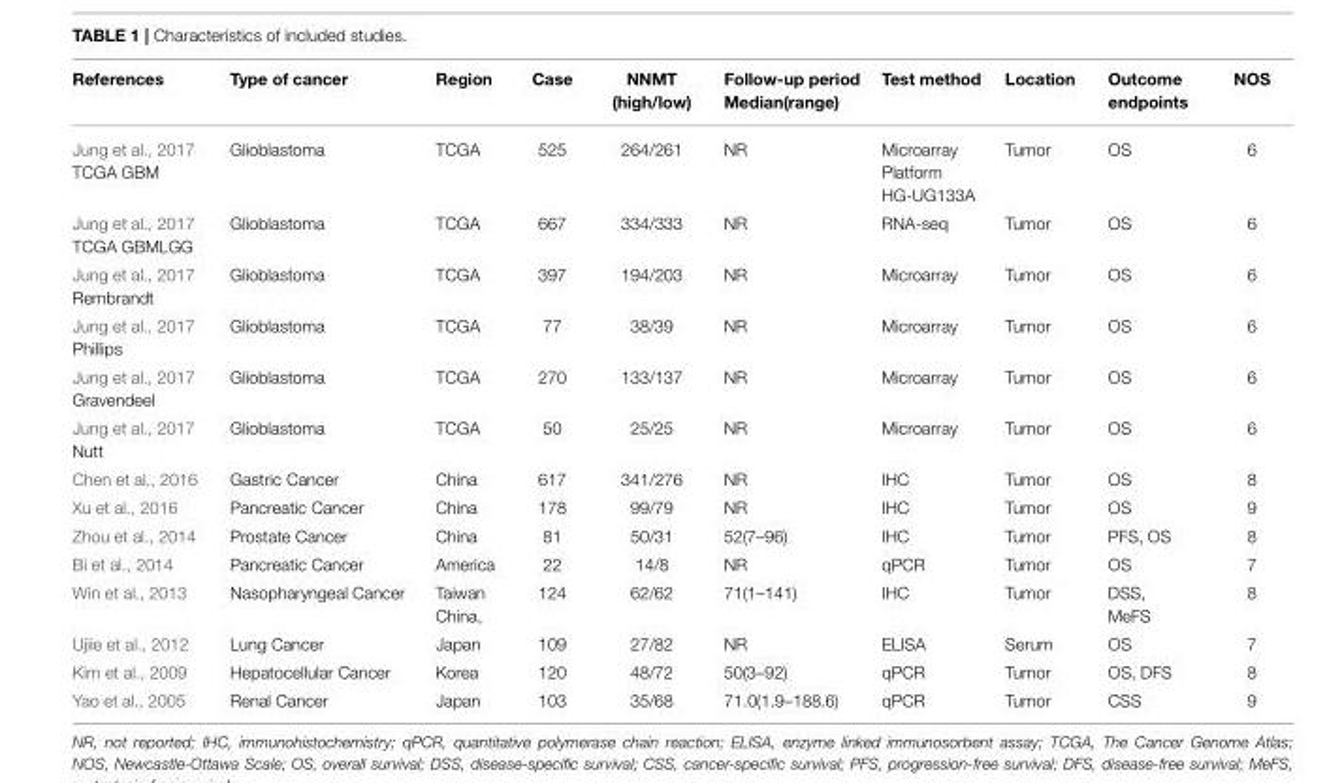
<table><thead><tr><td>References</td><td>Type of cancer</td><td>Region</td><td>Case</td><td>NNMT (high/low)</td><td>Follow-up period Median(range)</td><td>Test method</td><td>Location</td><td>Outcome endpoints</td><td>NOS</td></tr></thead><tbody><tr><td>Jung et al., 2017 TCGA GBM</td><td>Glioblastoma</td><td>TCGA</td><td>525</td><td>264/261</td><td>NR</td><td>Microarray Platform HG-UG133A</td><td>Tumor</td><td>OS</td><td>6</td></tr><tr><td>Jung et al., 2017 TCGA GBMLGG</td><td>Glioblastoma</td><td>TCGA</td><td>667</td><td>334/333</td><td>NR</td><td>RNA-seq</td><td>Tumor</td><td>OS</td><td>6</td></tr><tr><td>Jung et al., 2017 Rembrandt</td><td>Glioblastoma</td><td>TCGA</td><td>397</td><td>194/203</td><td>NR</td><td>Microarray</td><td>Tumor</td><td>OS</td><td>6</td></tr><tr><td>Jung et al., 2017 Phillips</td><td>Glioblastoma</td><td>TCGA</td><td>77</td><td>38/39</td><td>NR</td><td>Microarray</td><td>Tumor</td><td>OS</td><td>6</td></tr><tr><td>Jung et al., 2017 Gravendeel</td><td>Glioblastoma</td><td>TCGA</td><td>270</td><td>133/137</td><td>NR</td><td>Microarray</td><td>Tumor</td><td>OS</td><td>6</td></tr><tr><td>Jung et al., 2017 Nutt</td><td>Glioblastoma</td><td>TCGA</td><td>50</td><td>25/25</td><td>NR</td><td>Microarray</td><td>Tumor</td><td>OS</td><td>6</td></tr><tr><td>Chen et al., 2016</td><td>Gastric Cancer</td><td>China</td><td>617</td><td>341/276</td><td>NR</td><td>IHC</td><td>Tumor</td><td>OS</td><td>8</td></tr><tr><td>Xu et al., 2016</td><td>Pancreatic Cancer</td><td>China</td><td>178</td><td>99/79</td><td>NR</td><td>IHC</td><td>Tumor</td><td>OS</td><td>9</td></tr><tr><td>Zhou et al., 2014</td><td>Prostate Cancer</td><td>China</td><td>81</td><td>50/31</td><td>52(7–96)</td><td>IHC</td><td>Tumor</td><td>PFS, OS</td><td>8</td></tr><tr><td>Bi et al., 2014</td><td>Pancreatic Cancer</td><td>America</td><td>22</td><td>14/8</td><td>NR</td><td>qPCR</td><td>Tumor</td><td>OS</td><td>7</td></tr><tr><td>Win et al., 2013</td><td>Nasopharyngeal Cancer</td><td>Taiwan China,</td><td>124</td><td>62/62</td><td>71(1–141)</td><td>IHC</td><td>Tumor</td><td>DSS, MeFS</td><td>8</td></tr><tr><td>Ujiie et al., 2012</td><td>Lung Cancer</td><td>Japan</td><td>109</td><td>27/82</td><td>NR</td><td>ELISA</td><td>Serum</td><td>OS</td><td>7</td></tr><tr><td>Kim et al., 2009</td><td>Hepatocellular Cancer</td><td>Korea</td><td>120</td><td>48/72</td><td>50(3–92)</td><td>qPCR</td><td>Tumor</td><td>OS, DFS</td><td>8</td></tr><tr><td>Yao et al., 2005</td><td>Renal Cancer</td><td>Japan</td><td>103</td><td>35/68</td><td>71.0(1.9–188.6)</td><td>qPCR</td><td>Tumor</td><td>CSS</td><td>9</td></tr></tbody></table>